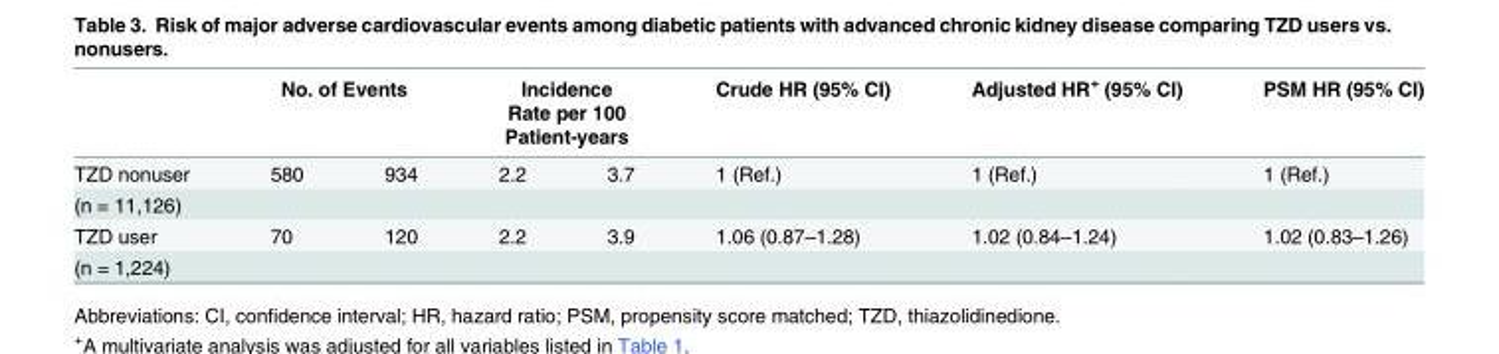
<table><thead><tr><td rowspan="2">TZD nonuser</td><td colspan="2">No. of Events</td><td colspan="2">Incidence Rate per 100 Patient-years</td><td rowspan="2">Crude HR (95% CI) 1 (Ref.)</td><td rowspan="2">Adjusted HR<sup>+</sup> (95% CI) 1 (Ref.)</td><td rowspan="2">PSM HR (95% CI) 1 (Ref.)</td></tr><tr><td>580</td><td>934</td><td>2.2</td><td>3.7</td></tr></thead><tbody><tr><td colspan="8">(n = 11,126)</td></tr><tr><td>TZD user</td><td>70</td><td>120</td><td>2.2</td><td>3.9</td><td>1.06 (0.87–1.28)</td><td>1.02 (0.84–1.24)</td><td>1.02 (0.83–1.26)</td></tr><tr><td>(n = 1,224)</td><td></td><td></td><td></td><td></td><td></td><td></td><td></td></tr></tbody></table>